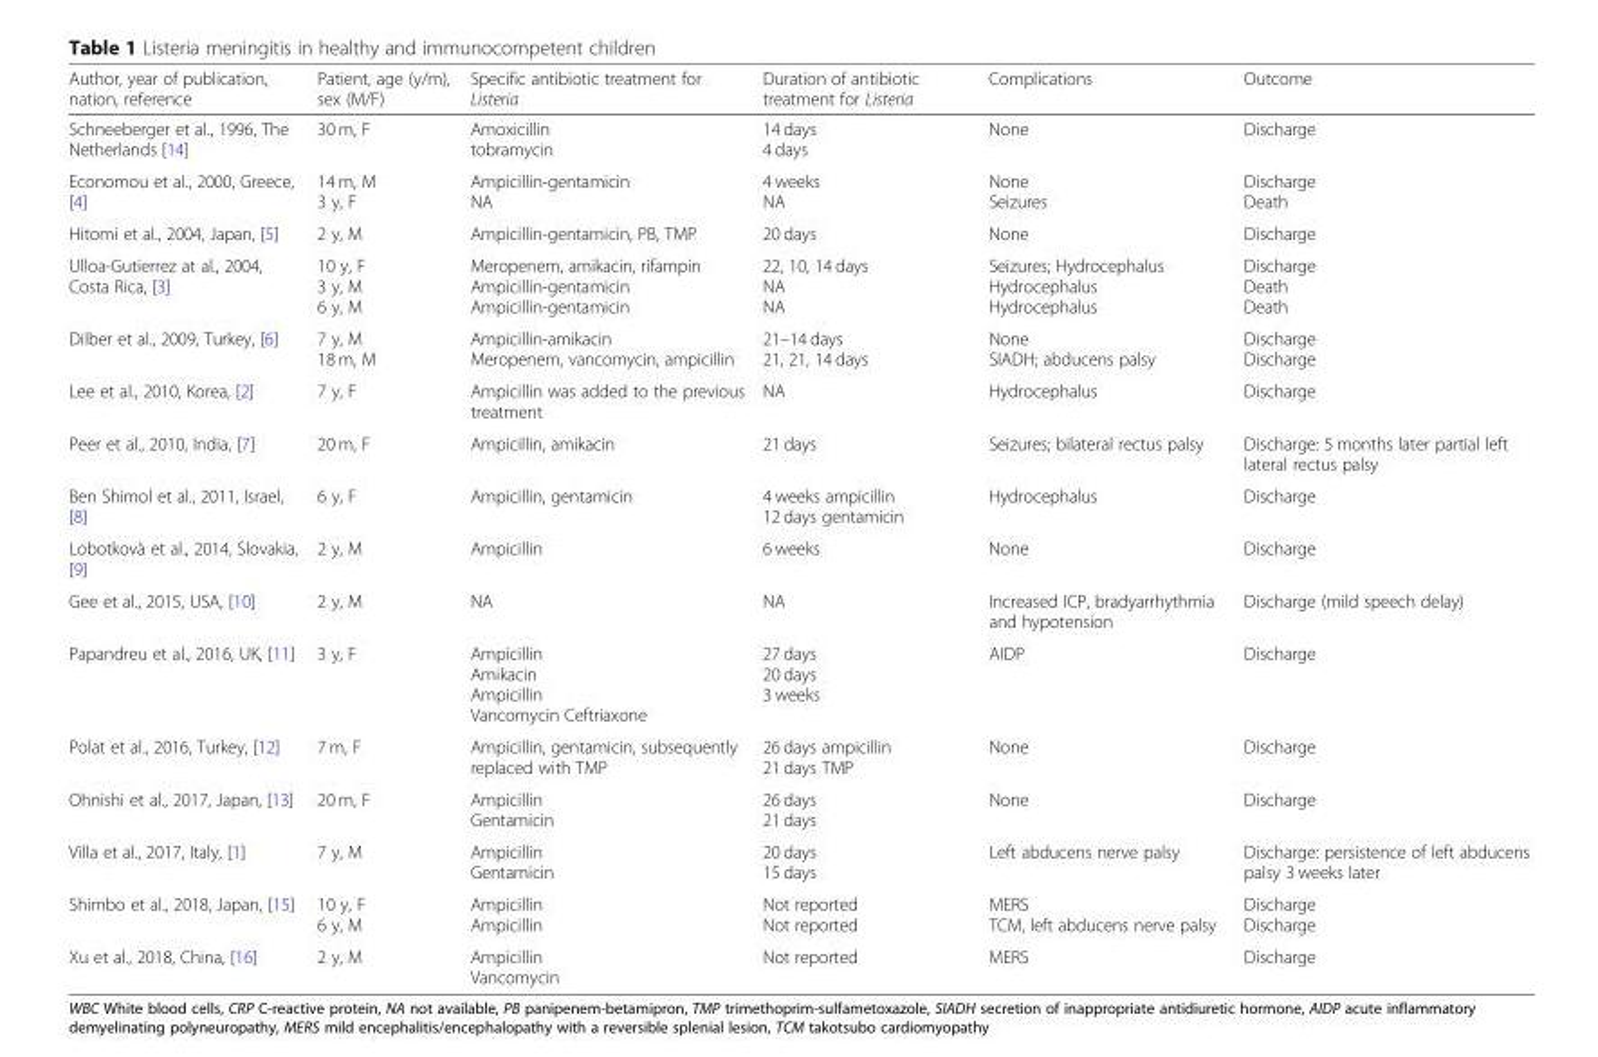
<table><thead><tr><td>Author, year of publication, nation, reference</td><td>Patient, age (y/m), sex (M/F)</td><td>Specific antibiotic treatment for Listeria</td><td>Duration of antibiotic treatment for Listeria</td><td>Complications</td><td>Outcome</td></tr></thead><tbody><tr><td>Schneeberger et al., 1996, The Netherlands [14]</td><td>30 m, F</td><td>Amoxicillin tobramycin</td><td>14 days 4 days</td><td>None</td><td>Discharge</td></tr><tr><td>Economou et al., 2000, Greece, [4]</td><td>14 m, M 3 y, F</td><td>Ampicillin-gentamicin NA</td><td>4 weeks NA</td><td>None Seizures</td><td>Discharge Death</td></tr><tr><td>Hitomi et al., 2004, Japan, [5]</td><td>2 y, M</td><td>Ampicillin-gentamicin, PB, TMP</td><td>20 days</td><td>None</td><td>Discharge</td></tr><tr><td>Ulloa-Gutierrez at al., 2004, Costa Rica, [3]</td><td>10 y, F 3 y, M 6 y, M</td><td>Meropenem, amikacin, rifampin Ampicillin-gentamicin Ampicillin-gentamicin</td><td>22, 10, 14 days NA NA</td><td>Seizures; Hydrocephalus Hydrocephalus Hydrocephalus</td><td>Discharge Death Death</td></tr><tr><td>Dilber et al., 2009, Turkey, [6]</td><td>7 y, M 18 m, M</td><td>Ampicillin-amikacin Meropenem, vancomycin, ampicillin</td><td>21–14 days 21, 21, 14 days</td><td>None SIADH; abducens palsy</td><td>Discharge Discharge</td></tr><tr><td>Lee et al., 2010, Korea, [2]</td><td>7 y, F</td><td>Ampicillin was added to the previous treatment</td><td>NA</td><td>Hydrocephalus</td><td>Discharge</td></tr><tr><td>Peer et al., 2010, India, [7]</td><td>20 m, F</td><td>Ampicillin, amikacin</td><td>21 days</td><td>Seizures; bilateral rectus palsy</td><td>Discharge: 5 months later partial left lateral rectus palsy</td></tr><tr><td>Ben Shimol et al., 2011, Israel, [8]</td><td>6 y, F</td><td>Ampicillin, gentamicin</td><td>4 weeks ampicillin 12 days gentamicin</td><td>Hydrocephalus</td><td>Discharge</td></tr><tr><td>Lobotkovà et al., 2014, Slovakia, [9]</td><td>2 y, M</td><td>Ampicillin</td><td>6 weeks</td><td>None</td><td>Discharge</td></tr><tr><td>Gee et al., 2015, USA, [10]</td><td>2 y, M</td><td>NA</td><td>NA</td><td>Increased ICP, bradyarrhythmia and hypotension</td><td>Discharge (mild speech delay)</td></tr><tr><td>Papandreu et al., 2016, UK, [11]</td><td>3 y, F</td><td>Ampicillin Amikacin Ampicillin Vancomycin Ceftriaxone</td><td>27 days 20 days 3 weeks</td><td>AIDP</td><td>Discharge</td></tr><tr><td>Polat et al., 2016, Turkey, [12]</td><td>7 m, F</td><td>Ampicillin, gentamicin, subsequently replaced with TMP</td><td>26 days ampicillin 21 days TMP</td><td>None</td><td>Discharge</td></tr><tr><td>Ohnishi et al., 2017, Japan, [13]</td><td>20 m, F</td><td>Ampicillin Gentamicin</td><td>26 days 21 days</td><td>None</td><td>Discharge</td></tr><tr><td>Villa et al., 2017, Italy, [1]</td><td>7 y, M</td><td>Ampicillin Gentamicin</td><td>20 days 15 days</td><td>Left abducens nerve palsy</td><td>Discharge: persistence of left abducens palsy 3 weeks later</td></tr><tr><td>Shimbo et al., 2018, Japan, [15]</td><td>10 y, F 6 y, M</td><td>Ampicillin Ampicillin</td><td>Not reported Not reported</td><td>MERS TCM, left abducens nerve palsy</td><td>Discharge Discharge</td></tr><tr><td>Xu et al., 2018, China, [16]</td><td>2 y, M</td><td>Ampicillin Vancomycin</td><td>Not reported</td><td>MERS</td><td>Discharge</td></tr></tbody></table>